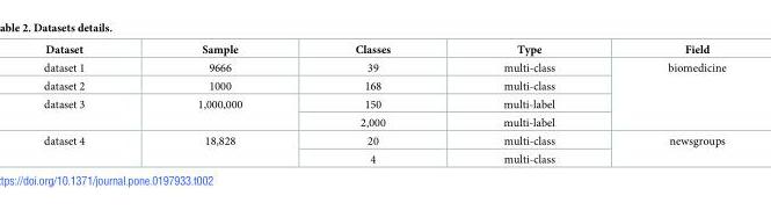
<table><thead><tr><td>Dataset</td><td>Sample</td><td>Classes</td><td>Type</td><td>Field</td></tr></thead><tbody><tr><td>dataset 1</td><td>9666</td><td>39</td><td>multi-class</td><td rowspan="4">biomedicine</td></tr><tr><td>dataset 2</td><td>1000</td><td>168</td><td>multi-class</td></tr><tr><td rowspan="2">dataset 3</td><td rowspan="2">1,000,000</td><td>150</td><td>multi-label</td></tr><tr><td>2,000</td><td>multi-label</td></tr><tr><td rowspan="2">dataset 4</td><td rowspan="2">18,828</td><td>20</td><td>multi-class</td><td rowspan="2">newsgroups</td></tr><tr><td>4</td><td>multi-class</td></tr></tbody></table>